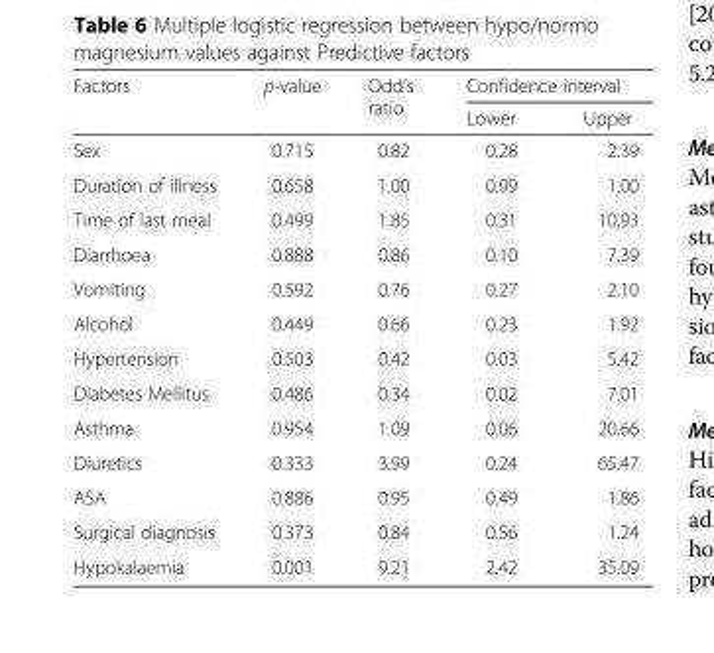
<table><thead><tr><td rowspan="2">Factors</td><td rowspan="2">p-value</td><td rowspan="2">Odd’s ratio</td><td colspan="2">Confidence interval</td></tr><tr><td>Lower</td><td>Upper</td></tr></thead><tbody><tr><td>Sex</td><td>0.715</td><td>0.82</td><td>0.28</td><td>2.39</td></tr><tr><td>Duration of illness</td><td>0.658</td><td>1.00</td><td>0.99</td><td>1.00</td></tr><tr><td>Time of last meal</td><td>0.499</td><td>1.85</td><td>0.31</td><td>10.93</td></tr><tr><td>Diarrhoea</td><td>0.888</td><td>0.86</td><td>0.10</td><td>7.39</td></tr><tr><td>Vomiting</td><td>0.592</td><td>0.76</td><td>0.27</td><td>2.10</td></tr><tr><td>Alcohol</td><td>0.449</td><td>0.66</td><td>0.23</td><td>1.92</td></tr><tr><td>Hypertension</td><td>0.503</td><td>0.42</td><td>0.03</td><td>5.42</td></tr><tr><td>Diabetes Mellitus</td><td>0.486</td><td>0.34</td><td>0.02</td><td>7.01</td></tr><tr><td>Asthma</td><td>0.954</td><td>1.09</td><td>0.06</td><td>20.66</td></tr><tr><td>Diuretics</td><td>0.333</td><td>3.99</td><td>0.24</td><td>65.47</td></tr><tr><td>ASA</td><td>0.886</td><td>0.95</td><td>0.49</td><td>1.86</td></tr><tr><td>Surgical diagnosis</td><td>0.373</td><td>0.84</td><td>0.56</td><td>1.24</td></tr><tr><td>Hypokalaemia</td><td>0.001</td><td>9.21</td><td>2.42</td><td>35.09</td></tr></tbody></table>